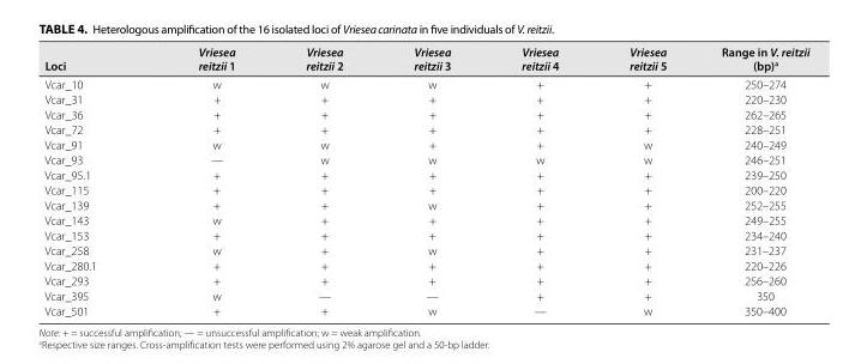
<table><thead><tr><td>Loci</td><td>Vriesea reitzii 1</td><td>Vriesea reitzii 2</td><td>Vriesea reitzii 3</td><td>Vriesea reitzii 4</td><td>Vriesea reitzii 5</td><td>Range in V. reitzii (bp)<sup>a</sup></td></tr></thead><tbody><tr><td>Vcar_10</td><td>w</td><td>w</td><td>w</td><td>+</td><td>+</td><td>250–274</td></tr><tr><td>Vcar_31</td><td>+</td><td>+</td><td>+</td><td>+</td><td>+</td><td>220–230</td></tr><tr><td>Vcar_36</td><td>+</td><td>+</td><td>+</td><td>+</td><td>+</td><td>262–265</td></tr><tr><td>Vcar_72</td><td>+</td><td>+</td><td>+</td><td>+</td><td>+</td><td>228–251</td></tr><tr><td>Vcar_91</td><td>w</td><td>w</td><td>+</td><td>+</td><td>w</td><td>240–249</td></tr><tr><td>Vcar_93</td><td>—</td><td>w</td><td>w</td><td>w</td><td>w</td><td>246–251</td></tr><tr><td>Vcar_95.1</td><td>+</td><td>+</td><td>+</td><td>+</td><td>+</td><td>239–250</td></tr><tr><td>Vcar_115</td><td>+</td><td>+</td><td>+</td><td>+</td><td>+</td><td>200–220</td></tr><tr><td>Vcar_139</td><td>+</td><td>+</td><td>w</td><td>+</td><td>+</td><td>252–255</td></tr><tr><td>Vcar_143</td><td>w</td><td>+</td><td>+</td><td>+</td><td>+</td><td>249–255</td></tr><tr><td>Vcar_153</td><td>+</td><td>+</td><td>+</td><td>+</td><td>+</td><td>234–240</td></tr><tr><td>Vcar_258</td><td>w</td><td>+</td><td>w</td><td>+</td><td>+</td><td>231–237</td></tr><tr><td>Vcar_280.1</td><td>+</td><td>+</td><td>+</td><td>+</td><td>+</td><td>220–226</td></tr><tr><td>Vcar_293</td><td>+</td><td>+</td><td>+</td><td>+</td><td>+</td><td>256–260</td></tr><tr><td>Vcar_395</td><td>w</td><td>—</td><td>—</td><td>+</td><td>+</td><td>350</td></tr><tr><td>Vcar_501</td><td>+</td><td>+</td><td>w</td><td>—</td><td>w</td><td>350–400</td></tr></tbody></table>